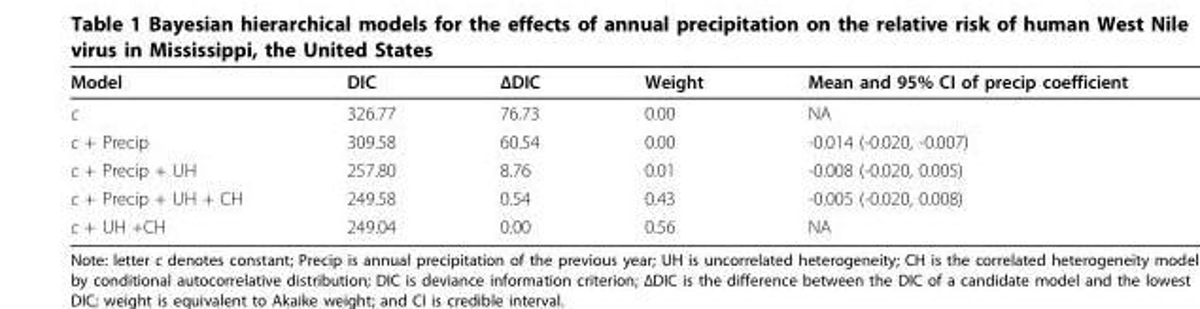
<table><thead><tr><td>Model</td><td>DIC</td><td>ΔDIC</td><td>Weight</td><td>Mean and 95% CI of precip coefficient</td></tr></thead><tbody><tr><td>c</td><td>326.77</td><td>76.73</td><td>0.00</td><td>NA</td></tr><tr><td>c + Precip</td><td>309.58</td><td>60.54</td><td>0.00</td><td>-0.014 (-0.020, -0.007)</td></tr><tr><td>c + Precip + UH</td><td>257.80</td><td>8.76</td><td>0.01</td><td>-0.008 (-0.020, 0.005)</td></tr><tr><td>c + Precip + UH + CH</td><td>249.58</td><td>0.54</td><td>0.43</td><td>-0.005 (-0.020, 0.008)</td></tr><tr><td>c + UH +CH</td><td>249.04</td><td>0.00</td><td>0.56</td><td>NA</td></tr></tbody></table>